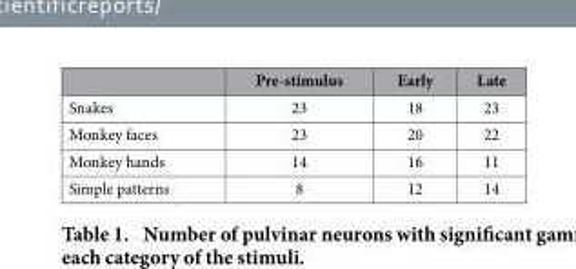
<table><thead><tr><td></td><td>Pre-stimulus</td><td>Early</td><td>Late</td></tr></thead><tbody><tr><td>Snakes</td><td>23</td><td>18</td><td>23</td></tr><tr><td>Monkey faces</td><td>23</td><td>20</td><td>22</td></tr><tr><td>Monkey hands</td><td>14</td><td>16</td><td>11</td></tr><tr><td>Simple patterns</td><td>8</td><td>12</td><td>14</td></tr></tbody></table>